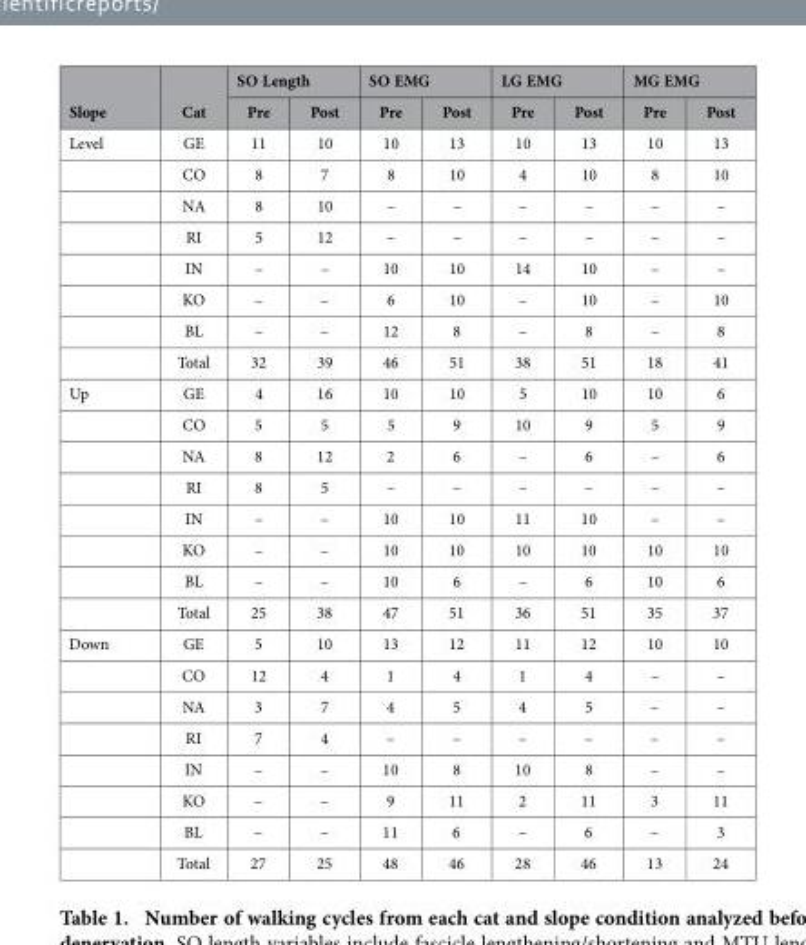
<table><thead><tr><td rowspan="2">Slope</td><td rowspan="2">Cat</td><td colspan="2">SO Length</td><td colspan="2">SO EMG</td><td colspan="2">LG EMG</td><td colspan="2">MG EMG</td></tr><tr><td>Pre</td><td>Post</td><td>Pre</td><td>Post</td><td>Pre</td><td>Post</td><td>Pre</td><td>Post</td></tr></thead><tbody><tr><td rowspan="8">Level</td><td>GE</td><td>11</td><td>10</td><td>10</td><td>13</td><td>10</td><td>13</td><td>10</td><td>13</td></tr><tr><td>CO</td><td>8</td><td>7</td><td>8</td><td>10</td><td>4</td><td>10</td><td>8</td><td>10</td></tr><tr><td>NA</td><td>8</td><td>10</td><td>–</td><td>–</td><td>–</td><td>–</td><td>–</td><td>–</td></tr><tr><td>RI</td><td>5</td><td>12</td><td>–</td><td>–</td><td>–</td><td>–</td><td>–</td><td>–</td></tr><tr><td>IN</td><td>–</td><td>–</td><td>10</td><td>10</td><td>14</td><td>10</td><td>–</td><td>–</td></tr><tr><td>KO</td><td>–</td><td>–</td><td>6</td><td>10</td><td>–</td><td>10</td><td>–</td><td>10</td></tr><tr><td>BL</td><td>–</td><td>–</td><td>12</td><td>8</td><td>–</td><td>8</td><td>–</td><td>8</td></tr><tr><td>Total</td><td>32</td><td>39</td><td>46</td><td>51</td><td>38</td><td>51</td><td>18</td><td>41</td></tr><tr><td rowspan="8">Up</td><td>GE</td><td>4</td><td>16</td><td>10</td><td>10</td><td>5</td><td>10</td><td>10</td><td>6</td></tr><tr><td>CO</td><td>5</td><td>5</td><td>5</td><td>9</td><td>10</td><td>9</td><td>5</td><td>9</td></tr><tr><td>NA</td><td>8</td><td>12</td><td>2</td><td>6</td><td>–</td><td>6</td><td>–</td><td>6</td></tr><tr><td>RI</td><td>8</td><td>5</td><td>–</td><td>–</td><td>–</td><td>–</td><td>–</td><td>–</td></tr><tr><td>IN</td><td>–</td><td>–</td><td>10</td><td>10</td><td>11</td><td>10</td><td>–</td><td>–</td></tr><tr><td>KO</td><td>–</td><td>–</td><td>10</td><td>10</td><td>10</td><td>10</td><td>10</td><td>10</td></tr><tr><td>BL</td><td>–</td><td>–</td><td>10</td><td>6</td><td>–</td><td>6</td><td>10</td><td>6</td></tr><tr><td>Total</td><td>25</td><td>38</td><td>47</td><td>51</td><td>36</td><td>51</td><td>35</td><td>37</td></tr><tr><td rowspan="8">Down</td><td>GE</td><td>5</td><td>10</td><td>13</td><td>12</td><td>11</td><td>12</td><td>10</td><td>10</td></tr><tr><td>CO</td><td>12</td><td>4</td><td>1</td><td>4</td><td>1</td><td>4</td><td>–</td><td>–</td></tr><tr><td>NA</td><td>3</td><td>7</td><td>4</td><td>5</td><td>4</td><td>5</td><td>–</td><td>–</td></tr><tr><td>RI</td><td>7</td><td>4</td><td>–</td><td>–</td><td>–</td><td>–</td><td>–</td><td>–</td></tr><tr><td>IN</td><td>–</td><td>–</td><td>10</td><td>8</td><td>10</td><td>8</td><td>–</td><td>–</td></tr><tr><td>KO</td><td>–</td><td>–</td><td>9</td><td>11</td><td>2</td><td>11</td><td>3</td><td>11</td></tr><tr><td>BL</td><td>–</td><td>–</td><td>11</td><td>6</td><td>–</td><td>6</td><td>–</td><td>3</td></tr><tr><td>Total</td><td>27</td><td>25</td><td>48</td><td>46</td><td>28</td><td>46</td><td>13</td><td>24</td></tr></tbody></table>